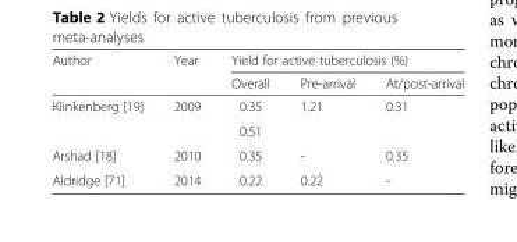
<table><thead><tr><td rowspan="2">Author</td><td rowspan="2">Year</td><td colspan="3">Yield for active tuberculosis (%)</td></tr><tr><td>Overall</td><td>Pre-arrival</td><td>At/post-arrival</td></tr></thead><tbody><tr><td rowspan="2">Klinkenberg [19]</td><td rowspan="2">2009</td><td>0.35</td><td rowspan="2">1.21</td><td rowspan="2">0.31</td></tr><tr><td>0.51</td></tr><tr><td>Arshad [18]</td><td>2010</td><td>0.35</td><td>-</td><td>0.35</td></tr><tr><td>Aldridge [71]</td><td>2014</td><td>0.22</td><td>0.22</td><td>-</td></tr></tbody></table>